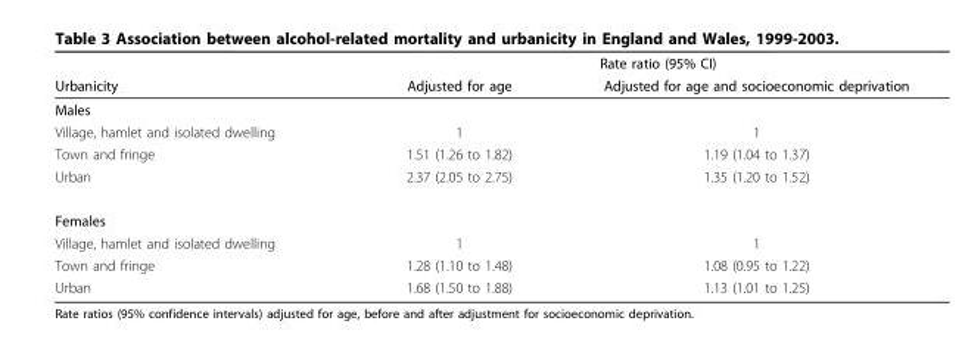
<table><thead><tr><td rowspan="2">Urbanicity</td><td colspan="2">Rate ratio (95% CI)</td></tr><tr><td>Adjusted for age</td><td>Adjusted for age and socioeconomic deprivation</td></tr></thead><tbody><tr><td colspan="3">Males</td></tr><tr><td>Village, hamlet and isolated dwelling</td><td>1</td><td>1</td></tr><tr><td>Town and fringe</td><td>1.51 (1.26 to 1.82)</td><td>1.19 (1.04 to 1.37)</td></tr><tr><td>Urban</td><td>2.37 (2.05 to 2.75)</td><td>1.35 (1.20 to 1.52)</td></tr><tr><td colspan="3">Females</td></tr><tr><td>Village, hamlet and isolated dwelling</td><td>1</td><td>1</td></tr><tr><td>Town and fringe</td><td>1.28 (1.10 to 1.48)</td><td>1.08 (0.95 to 1.22)</td></tr><tr><td>Urban</td><td>1.68 (1.50 to 1.88)</td><td>1.13 (1.01 to 1.25)</td></tr></tbody></table>